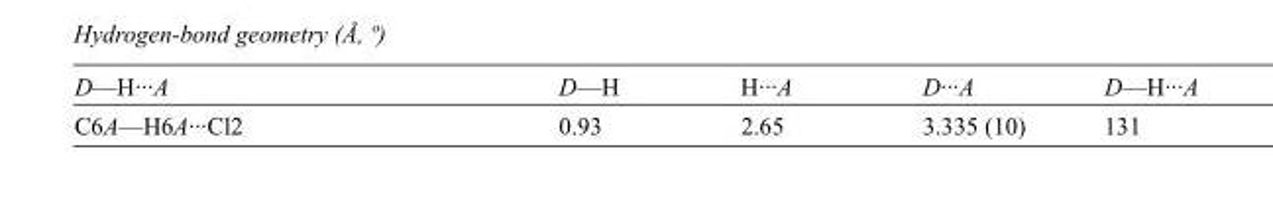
<table><tbody><tr><td>D—H···A</td><td>D—H</td><td>H···A</td><td>D···A</td><td>D—H···A</td></tr><tr><td>C6A—H6A···Cl2</td><td>0.93</td><td>2.65</td><td>3.335 (10)</td><td>131</td></tr></tbody></table>